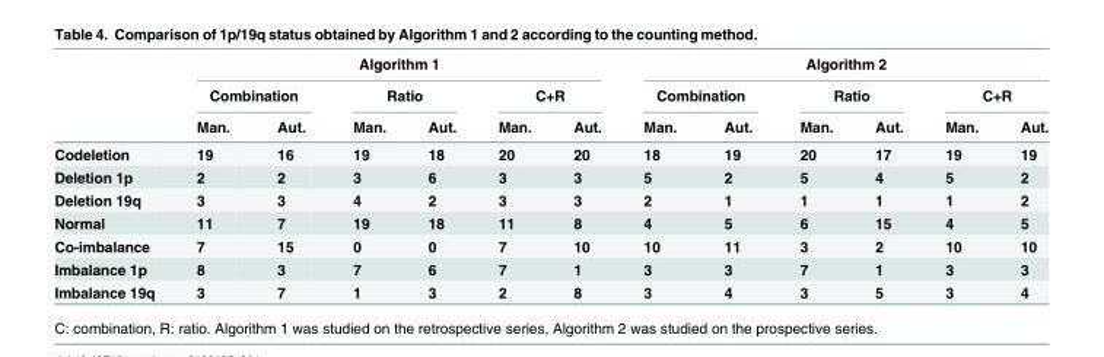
<table><thead><tr><td rowspan="3"></td><td colspan="6">Algorithm 1</td><td colspan="6">Algorithm 2</td></tr><tr><td colspan="2">Combination</td><td colspan="2">Ratio</td><td colspan="2">C+R</td><td colspan="2">Combination</td><td colspan="2">Ratio</td><td colspan="2">C+R</td></tr><tr><td>Man.</td><td>Aut.</td><td>Man.</td><td>Aut.</td><td>Man.</td><td>Aut.</td><td>Man.</td><td>Aut.</td><td>Man.</td><td>Aut.</td><td>Man.</td><td>Aut.</td></tr></thead><tbody><tr><td>Codeletion</td><td>19</td><td>16</td><td>19</td><td>18</td><td>20</td><td>20</td><td>18</td><td>19</td><td>20</td><td>17</td><td>19</td><td>19</td></tr><tr><td>Deletion 1p</td><td>2</td><td>2</td><td>3</td><td>6</td><td>3</td><td>3</td><td>5</td><td>2</td><td>5</td><td>4</td><td>5</td><td>2</td></tr><tr><td>Deletion 19q</td><td>3</td><td>3</td><td>4</td><td>2</td><td>3</td><td>3</td><td>2</td><td>1</td><td>1</td><td>1</td><td>1</td><td>2</td></tr><tr><td>Normal</td><td>11</td><td>7</td><td>19</td><td>18</td><td>11</td><td>8</td><td>4</td><td>5</td><td>6</td><td>15</td><td>4</td><td>5</td></tr><tr><td>Co-imbalance</td><td>7</td><td>15</td><td>0</td><td>0</td><td>7</td><td>10</td><td>10</td><td>11</td><td>3</td><td>2</td><td>10</td><td>10</td></tr><tr><td>Imbalance 1p</td><td>8</td><td>3</td><td>7</td><td>6</td><td>7</td><td>1</td><td>3</td><td>3</td><td>7</td><td>1</td><td>3</td><td>3</td></tr><tr><td>Imbalance 19q</td><td>3</td><td>7</td><td>1</td><td>3</td><td>2</td><td>8</td><td>3</td><td>4</td><td>3</td><td>5</td><td>3</td><td>4</td></tr></tbody></table>